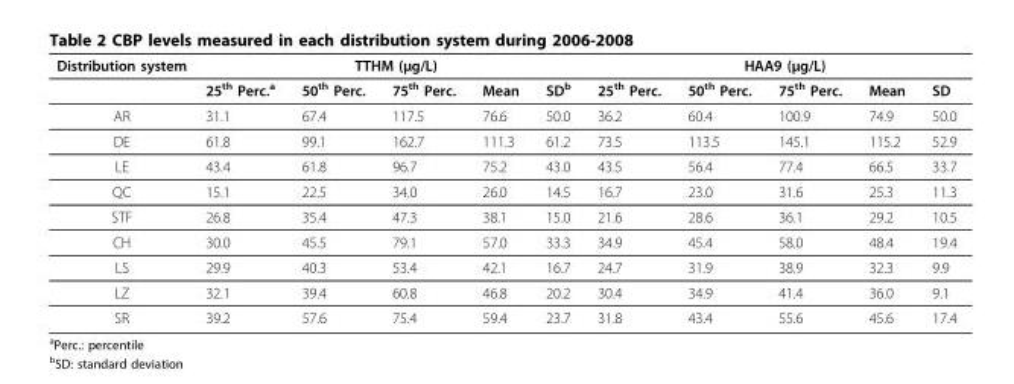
<table><thead><tr><td rowspan="2">Distribution system</td><td colspan="5">TTHM (μg/L)</td><td colspan="5">HAA9 (μg/L)</td></tr><tr><td>25<sup>th</sup> Perc.<sup>a</sup></td><td>50<sup>th</sup> Perc.</td><td>75<sup>th</sup> Perc.</td><td>Mean</td><td>SD<sup>b</sup></td><td>25<sup>th</sup> Perc.</td><td>50<sup>th</sup> Perc.</td><td>75<sup>th</sup> Perc.</td><td>Mean</td><td>SD</td></tr></thead><tbody><tr><td>AR</td><td>31.1</td><td>67.4</td><td>117.5</td><td>76.6</td><td>50.0</td><td>36.2</td><td>60.4</td><td>100.9</td><td>74.9</td><td>50.0</td></tr><tr><td>DE</td><td>61.8</td><td>99.1</td><td>162.7</td><td>111.3</td><td>61.2</td><td>73.5</td><td>113.5</td><td>145.1</td><td>115.2</td><td>52.9</td></tr><tr><td>LE</td><td>43.4</td><td>61.8</td><td>96.7</td><td>75.2</td><td>43.0</td><td>43.5</td><td>56.4</td><td>77.4</td><td>66.5</td><td>33.7</td></tr><tr><td>QC</td><td>15.1</td><td>22.5</td><td>34.0</td><td>26.0</td><td>14.5</td><td>16.7</td><td>23.0</td><td>31.6</td><td>25.3</td><td>11.3</td></tr><tr><td>STF</td><td>26.8</td><td>35.4</td><td>47.3</td><td>38.1</td><td>15.0</td><td>21.6</td><td>28.6</td><td>36.1</td><td>29.2</td><td>10.5</td></tr><tr><td>CH</td><td>30.0</td><td>45.5</td><td>79.1</td><td>57.0</td><td>33.3</td><td>34.9</td><td>45.4</td><td>58.0</td><td>48.4</td><td>19.4</td></tr><tr><td>LS</td><td>29.9</td><td>40.3</td><td>53.4</td><td>42.1</td><td>16.7</td><td>24.7</td><td>31.9</td><td>38.9</td><td>32.3</td><td>9.9</td></tr><tr><td>LZ</td><td>32.1</td><td>39.4</td><td>60.8</td><td>46.8</td><td>20.2</td><td>30.4</td><td>34.9</td><td>41.4</td><td>36.0</td><td>9.1</td></tr><tr><td>SR</td><td>39.2</td><td>57.6</td><td>75.4</td><td>59.4</td><td>23.7</td><td>31.8</td><td>43.4</td><td>55.6</td><td>45.6</td><td>17.4</td></tr></tbody></table>